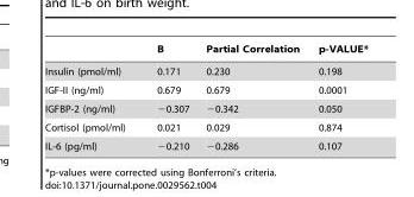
<table><thead><tr><td></td><td>B</td><td>Partial Correlation</td><td>p-VALUE*</td></tr></thead><tbody><tr><td>Insulin (pmol/ml)</td><td>0.171</td><td>0.230</td><td>0.198</td></tr><tr><td>IGF-II (ng/ml)</td><td>0.679</td><td>0.679</td><td>0.0001</td></tr><tr><td>IGFBP-2 (ng/ml)</td><td>−0.307</td><td>−0.342</td><td>0.050</td></tr><tr><td>Cortisol (pmol/ml)</td><td>0.021</td><td>0.029</td><td>0.874</td></tr><tr><td>IL-6 (pg/ml)</td><td>−0.210</td><td>−0.286</td><td>0.107</td></tr></tbody></table>